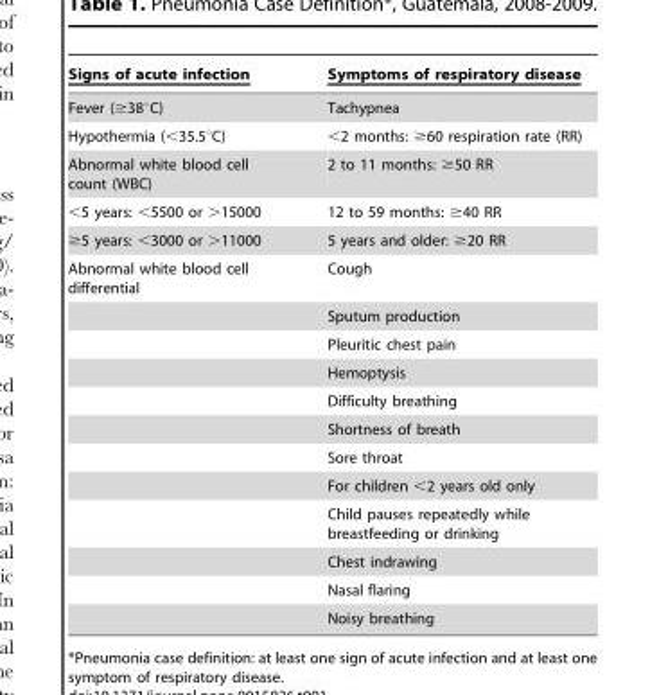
<table><thead><tr><td>Signs of acute infection</td><td>Symptoms of respiratory disease</td></tr></thead><tbody><tr><td>Fever (≥38°C)</td><td>Tachypnea</td></tr><tr><td>Hypothermia (&lt;35.5°C)</td><td>&lt;2 months: ≥60 respiration rate (RR)</td></tr><tr><td>Abnormal white blood cell count (WBC)</td><td>2 to 11 months: ≥50 RR</td></tr><tr><td>&lt;5 years: &lt;5500 or &gt;15000</td><td>12 to 59 months: ≥40 RR</td></tr><tr><td>≥5 years: &lt;3000 or &gt;11000</td><td>5 years and older: ≥20 RR</td></tr><tr><td rowspan="12">Abnormal white blood cell differential</td><td>Cough</td></tr><tr><td>Sputum production</td></tr><tr><td>Pleuritic chest pain</td></tr><tr><td>Hemoptysis</td></tr><tr><td>Difficulty breathing</td></tr><tr><td>Shortness of breath</td></tr><tr><td>Sore throat</td></tr><tr><td>For children &lt;2 years old only</td></tr><tr><td>Child pauses repeatedly while breastfeeding or drinking</td></tr><tr><td>Chest indrawing</td></tr><tr><td>Nasal flaring</td></tr><tr><td>Noisy breathing</td></tr></tbody></table>